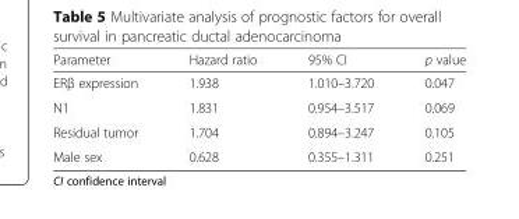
<table><thead><tr><td>Parameter</td><td>Hazard ratio</td><td>95% CI</td><td>p value</td></tr></thead><tbody><tr><td>ERβ expression</td><td>1.938</td><td>1.010–3.720</td><td>0.047</td></tr><tr><td>N1</td><td>1.831</td><td>0.954–3.517</td><td>0.069</td></tr><tr><td>Residual tumor</td><td>1.704</td><td>0.894–3.247</td><td>0.105</td></tr><tr><td>Male sex</td><td>0.628</td><td>0.355–1.311</td><td>0.251</td></tr></tbody></table>